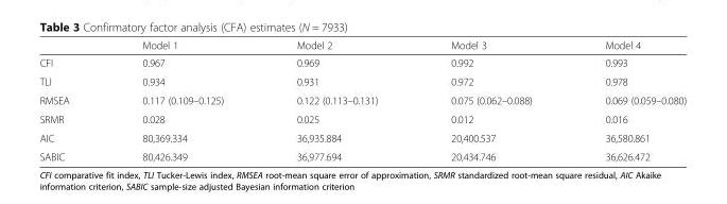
<table><thead><tr><td></td><td>Model 1</td><td>Model 2</td><td>Model 3</td><td>Model 4</td></tr></thead><tbody><tr><td>CFI</td><td>0.967</td><td>0.969</td><td>0.992</td><td>0.993</td></tr><tr><td>TLI</td><td>0.934</td><td>0.931</td><td>0.972</td><td>0.978</td></tr><tr><td>RMSEA</td><td>0.117 (0.109–0.125)</td><td>0.122 (0.113–0.131)</td><td>0.075 (0.062–0.088)</td><td>0.069 (0.059–0.080)</td></tr><tr><td>SRMR</td><td>0.028</td><td>0.025</td><td>0.012</td><td>0.016</td></tr><tr><td>AIC</td><td>80,369.334</td><td>36,935.884</td><td>20,400.537</td><td>36,580.861</td></tr><tr><td>SABIC</td><td>80,426.349</td><td>36,977.694</td><td>20,434.746</td><td>36,626.472</td></tr></tbody></table>